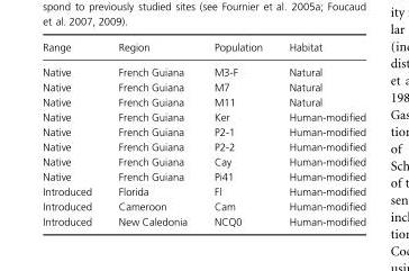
<table><thead><tr><td>Range</td><td>Region</td><td>Population</td><td>Habitat</td></tr></thead><tbody><tr><td>Native</td><td>French Guiana</td><td>M3-F</td><td>Natural</td></tr><tr><td>Native</td><td>French Guiana</td><td>M7</td><td>Natural</td></tr><tr><td>Native</td><td>French Guiana</td><td>M11</td><td>Natural</td></tr><tr><td>Native</td><td>French Guiana</td><td>Ker</td><td>Human-modified</td></tr><tr><td>Native</td><td>French Guiana</td><td>P2-1</td><td>Human-modified</td></tr><tr><td>Native</td><td>French Guiana</td><td>P2-2</td><td>Human-modified</td></tr><tr><td>Native</td><td>French Guiana</td><td>Cay</td><td>Human-modified</td></tr><tr><td>Native</td><td>French Guiana</td><td>Pi41</td><td>Human-modified</td></tr><tr><td>Introduced</td><td>Florida</td><td>Fl</td><td>Human-modified</td></tr><tr><td>Introduced</td><td>Cameroon</td><td>Cam</td><td>Human-modified</td></tr><tr><td>Introduced</td><td>New Caledonia</td><td>NCQ0</td><td>Human-modified</td></tr></tbody></table>